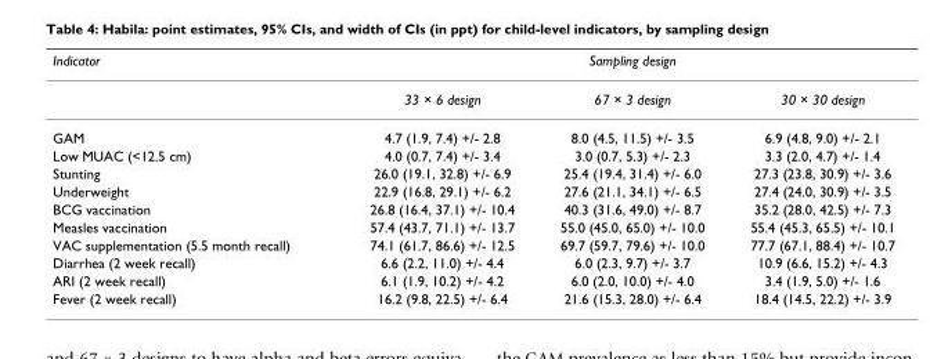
<table><thead><tr><td rowspan="2">Indicator</td><td colspan="3">Sampling design</td></tr><tr><td>33 × 6 design</td><td>67 × 3 design</td><td>30 × 30 design</td></tr></thead><tbody><tr><td>GAM</td><td>4.7 (1.9, 7.4) +/- 2.8</td><td>8.0 (4.5, 11.5) +/- 3.5</td><td>6.9 (4.8, 9.0) +/- 2.1</td></tr><tr><td>Low MUAC (&lt;12.5 cm)</td><td>4.0 (0.7, 7.4) +/- 3.4</td><td>3.0 (0.7, 5.3) +/- 2.3</td><td>3.3 (2.0, 4.7) +/- 1.4</td></tr><tr><td>Stunting</td><td>26.0 (19.1, 32.8) +/- 6.9</td><td>25.4 (19.4, 31.4) +/- 6.0</td><td>27.3 (23.8, 30.9) +/- 3.6</td></tr><tr><td>Underweight</td><td>22.9 (16.8, 29.1) +/- 6.2</td><td>27.6 (21.1, 34.1) +/- 6.5</td><td>27.4 (24.0, 30.9) +/- 3.5</td></tr><tr><td>BCG vaccination</td><td>26.8 (16.4, 37.1) +/- 10.4</td><td>40.3 (31.6, 49.0) +/- 8.7</td><td>35.2 (28.0, 42.5) +/- 7.3</td></tr><tr><td>Measles vaccination</td><td>57.4 (43.7, 71.1) +/- 13.7</td><td>55.0 (45.0, 65.0) +/- 10.0</td><td>55.4 (45.3, 65.5) +/- 10.1</td></tr><tr><td>VAC supplementation (5.5 month recall)</td><td>74.1 (61.7, 86.6) +/- 12.5</td><td>69.7 (59.7, 79.6) +/- 10.0</td><td>77.7 (67.1, 88.4) +/- 10.7</td></tr><tr><td>Diarrhea (2 week recall)</td><td>6.6 (2.2, 11.0) +/- 4.4</td><td>6.0 (2.3, 9.7) +/- 3.7</td><td>10.9 (6.6, 15.2) +/- 4.3</td></tr><tr><td>ARI (2 week recall)</td><td>6.1 (1.9, 10.2) +/- 4.2</td><td>6.0 (2.0, 10.0) +/- 4.0</td><td>3.4 (1.9, 5.0) +/- 1.6</td></tr><tr><td>Fever (2 week recall)</td><td>16.2 (9.8, 22.5) +/- 6.4</td><td>21.6 (15.3, 28.0) +/- 6.4</td><td>18.4 (14.5, 22.2) +/- 3.9</td></tr></tbody></table>